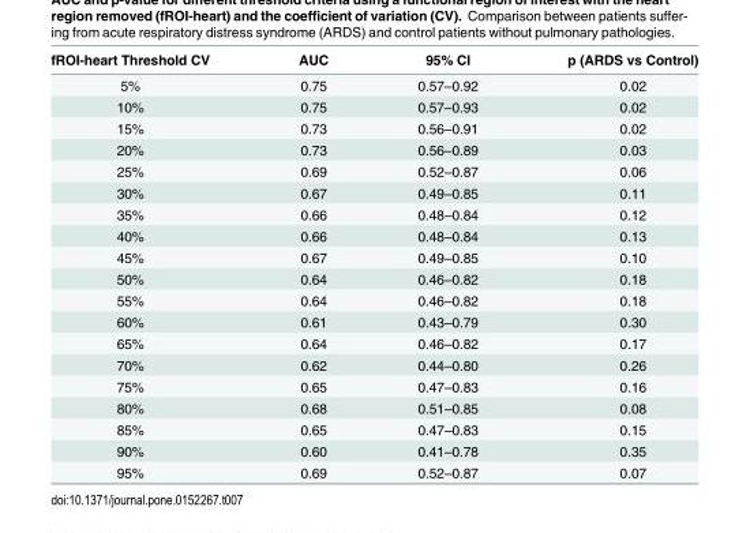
<table><thead><tr><td>fROI-heart Threshold CV</td><td>AUC</td><td>95% CI</td><td>p (ARDS vs Control)</td></tr></thead><tbody><tr><td>5%</td><td>0.75</td><td>0.57–0.92</td><td>0.02</td></tr><tr><td>10%</td><td>0.75</td><td>0.57–0.93</td><td>0.02</td></tr><tr><td>15%</td><td>0.73</td><td>0.56–0.91</td><td>0.02</td></tr><tr><td>20%</td><td>0.73</td><td>0.56–0.89</td><td>0.03</td></tr><tr><td>25%</td><td>0.69</td><td>0.52–0.87</td><td>0.06</td></tr><tr><td>30%</td><td>0.67</td><td>0.49–0.85</td><td>0.11</td></tr><tr><td>35%</td><td>0.66</td><td>0.48–0.84</td><td>0.12</td></tr><tr><td>40%</td><td>0.66</td><td>0.48–0.84</td><td>0.13</td></tr><tr><td>45%</td><td>0.67</td><td>0.49–0.85</td><td>0.10</td></tr><tr><td>50%</td><td>0.64</td><td>0.46–0.82</td><td>0.18</td></tr><tr><td>55%</td><td>0.64</td><td>0.46–0.82</td><td>0.18</td></tr><tr><td>60%</td><td>0.61</td><td>0.43–0.79</td><td>0.30</td></tr><tr><td>65%</td><td>0.64</td><td>0.46–0.82</td><td>0.17</td></tr><tr><td>70%</td><td>0.62</td><td>0.44–0.80</td><td>0.26</td></tr><tr><td>75%</td><td>0.65</td><td>0.47–0.83</td><td>0.16</td></tr><tr><td>80%</td><td>0.68</td><td>0.51–0.85</td><td>0.08</td></tr><tr><td>85%</td><td>0.65</td><td>0.47–0.83</td><td>0.15</td></tr><tr><td>90%</td><td>0.60</td><td>0.41–0.78</td><td>0.35</td></tr><tr><td>95%</td><td>0.69</td><td>0.52–0.87</td><td>0.07</td></tr></tbody></table>